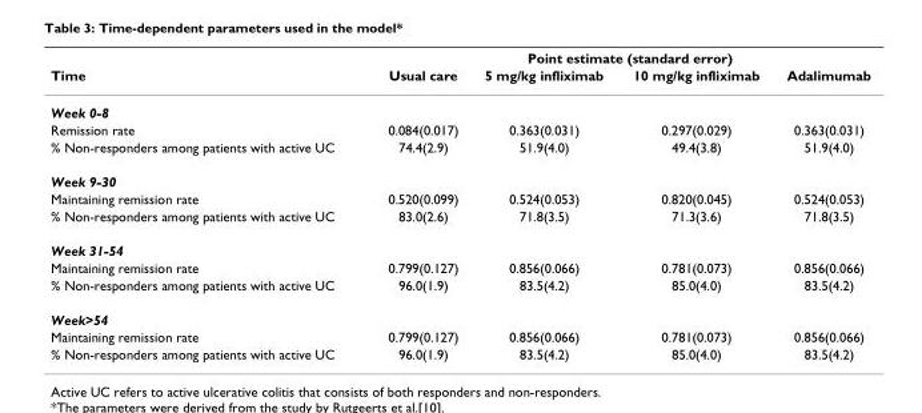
<table><thead><tr><td rowspan="2">Time</td><td colspan="4">Point estimate (standard error)</td></tr><tr><td>Usual care</td><td>5 mg/kg infliximab</td><td>10 mg/kg infliximab</td><td>Adalimumab</td></tr></thead><tbody><tr><td colspan="5">Week 0-8</td></tr><tr><td>Remission rate</td><td>0.084(0.017)</td><td>0.363(0.031)</td><td>0.297(0.029)</td><td>0.363(0.031)</td></tr><tr><td>% Non-responders among patients with active UC</td><td>74.4(2.9)</td><td>51.9(4.0)</td><td>49.4(3.8)</td><td>51.9(4.0)</td></tr><tr><td colspan="5">Week 9-30</td></tr><tr><td>Maintaining remission rate</td><td>0.520(0.099)</td><td>0.524(0.053)</td><td>0.820(0.045)</td><td>0.524(0.053)</td></tr><tr><td>% Non-responders among patients with active UC</td><td>83.0(2.6)</td><td>71.8(3.5)</td><td>71.3(3.6)</td><td>71.8(3.5)</td></tr><tr><td colspan="5">Week 31-54</td></tr><tr><td>Maintaining remission rate</td><td>0.799(0.127)</td><td>0.856(0.066)</td><td>0.781(0.073)</td><td>0.856(0.066)</td></tr><tr><td>% Non-responders among patients with active UC</td><td>96.0(1.9)</td><td>83.5(4.2)</td><td>85.0(4.0)</td><td>83.5(4.2)</td></tr><tr><td colspan="5">Week&gt;54</td></tr><tr><td>Maintaining remission rate</td><td>0.799(0.127)</td><td>0.856(0.066)</td><td>0.781(0.073)</td><td>0.856(0.066)</td></tr><tr><td>% Non-responders among patients with active UC</td><td>96.0(1.9)</td><td>83.5(4.2)</td><td>85.0(4.0)</td><td>83.5(4.2)</td></tr></tbody></table>